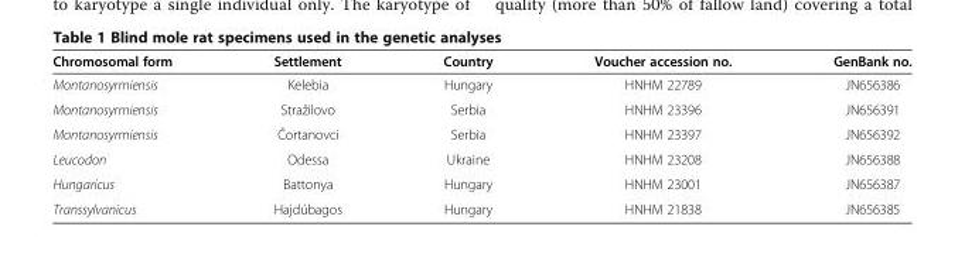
<table><thead><tr><td>Chromosomal form</td><td>Settlement</td><td>Country</td><td>Voucher accession no.</td><td>GenBank no.</td></tr></thead><tbody><tr><td>Montanosyrmiensis</td><td>Kelebia</td><td>Hungary</td><td>HNHM 22789</td><td>JN656386</td></tr><tr><td>Montanosyrmiensis</td><td>Stražilovo</td><td>Serbia</td><td>HNHM 23396</td><td>JN656391</td></tr><tr><td>Montanosyrmiensis</td><td>Čortanovci</td><td>Serbia</td><td>HNHM 23397</td><td>JN656392</td></tr><tr><td>Leucodon</td><td>Odessa</td><td>Ukraine</td><td>HNHM 23208</td><td>JN656388</td></tr><tr><td>Hungaricus</td><td>Battonya</td><td>Hungary</td><td>HNHM 23001</td><td>JN656387</td></tr><tr><td>Transsylvanicus</td><td>Hajdúbagos</td><td>Hungary</td><td>HNHM 21838</td><td>JN656385</td></tr></tbody></table>